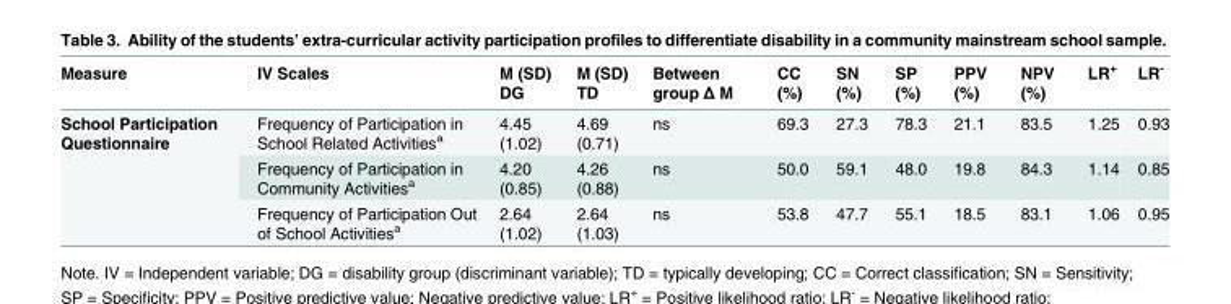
<table><thead><tr><td>Measure</td><td>IV Scales</td><td>M (SD) DG</td><td>M (SD) TD</td><td>Between group Δ M</td><td>CC (%)</td><td>SN (%)</td><td>SP (%)</td><td>PPV (%)</td><td>NPV (%)</td><td>LR<sup>+</sup></td><td>LR<sup>-</sup></td></tr></thead><tbody><tr><td rowspan="3">School Participation Questionnaire</td><td>Frequency of Participation in School Related Activities<sup>a</sup></td><td>4.45 (1.02)</td><td>4.69 (0.71)</td><td>ns</td><td>69.3</td><td>27.3</td><td>78.3</td><td>21.1</td><td>83.5</td><td>1.25</td><td>0.93</td></tr><tr><td>Frequency of Participation in Community Activities<sup>a</sup></td><td>4.20 (0.85)</td><td>4.26 (0.88)</td><td>ns</td><td>50.0</td><td>59.1</td><td>48.0</td><td>19.8</td><td>84.3</td><td>1.14</td><td>0.85</td></tr><tr><td>Frequency of Participation Out of School Activities<sup>a</sup></td><td>2.64 (1.02)</td><td>2.64 (1.03)</td><td>ns</td><td>53.8</td><td>47.7</td><td>55.1</td><td>18.5</td><td>83.1</td><td>1.06</td><td>0.95</td></tr></tbody></table>